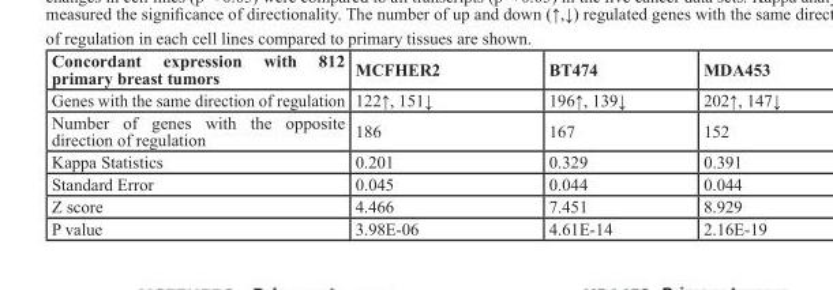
<table><thead><tr><td>Concordant expression with 812 primary breast tumors</td><td>MCFHER2</td><td>BT474</td><td>MDA453</td></tr></thead><tbody><tr><td>Genes with the same direction of regulation</td><td>122↑, 151↓</td><td>196↑, 139↓</td><td>202↑, 147↓</td></tr><tr><td>Number of genes with the opposite direction of regulation</td><td>186</td><td>167</td><td>152</td></tr><tr><td>Kappa Statistics</td><td>0.201</td><td>0.329</td><td>0.391</td></tr><tr><td>Standard Error</td><td>0.045</td><td>0.044</td><td>0.044</td></tr><tr><td>Z score</td><td>4.466</td><td>7.451</td><td>8.929</td></tr><tr><td>P value</td><td>3.98E-06</td><td>4.61E-14</td><td>2.16E-19</td></tr></tbody></table>